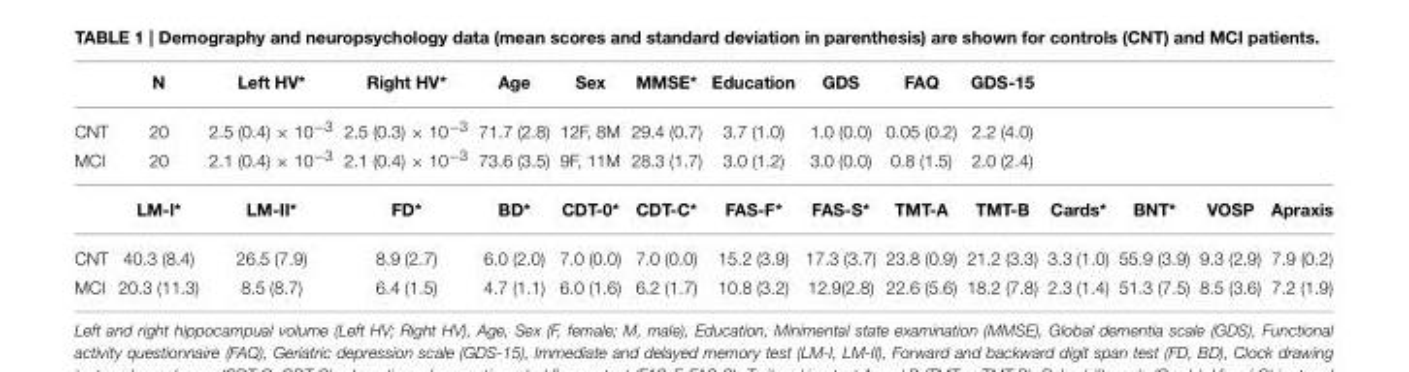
<table><thead><tr><td></td><td>N</td><td>Left HV*</td><td>Right HV*</td><td>Age</td><td>Sex</td><td>MMSE*</td><td>Education</td><td>GDS</td><td>FAQ</td><td>GDS-15</td><td></td><td></td><td></td><td></td></tr></thead><tbody><tr><td>CNT</td><td>20</td><td>2.5 (0.4) × 10−3</td><td>2.5 (0.3) × 10−3</td><td>71.7 (2.8)</td><td>12F, 8M</td><td>29.4 (0.7)</td><td>3.7 (1.0)</td><td>1.0 (0.0)</td><td>0.05 (0.2)</td><td>2.2 (4.0)</td><td></td><td></td><td></td><td></td></tr><tr><td rowspan="2">MCI</td><td>20</td><td>2.1 (0.4) × 10−3</td><td>2.1 (0.4) × 10−3</td><td>73.6 (3.5)</td><td>9F, 11M</td><td>28.3 (1.7)</td><td>3.0 (1.2)</td><td>3.0 (0.0)</td><td>0.8 (1.5)</td><td>2.0 (2.4)</td><td></td><td></td><td></td><td></td></tr><tr><td>LM-l*</td><td>LM-II*</td><td>FD*</td><td>BD*</td><td>CDT-0*</td><td>CDT-C*</td><td>FAS-F*</td><td>FAS-S*</td><td>TMT-A</td><td>TMT-B</td><td>Cards*</td><td>BNT*</td><td>VOSP</td><td>Apraxis</td></tr><tr><td>CNT</td><td>40.3 (8.4)</td><td>26.5 (7.9)</td><td>8.9 (2.7)</td><td>6.0 (2.0)</td><td>7.0 (0.0)</td><td>7.0 (0.0)</td><td>15.2 (3.9)</td><td>17.3 (3.7)</td><td>23.8 (0.9)</td><td>21.2 (3.3)</td><td>3.3 (1.0)</td><td>55.9 (3.9)</td><td>9.3 (2.9)</td><td>7.9 (0.2)</td></tr><tr><td>MCI</td><td>20.3 (11.3)</td><td>8.5 (8.7)</td><td>6.4 (1.5)</td><td>4.7 (1.1)</td><td>6.0 (1.6)</td><td>6.2 (1.7)</td><td>10.8 (3.2)</td><td>12.9(2.8)</td><td>22.6 (5.6)</td><td>18.2 (7.8)</td><td>2.3 (1.4)</td><td>51.3 (7.5)</td><td>8.5 (3.6)</td><td>7.2 (1.9)</td></tr></tbody></table>